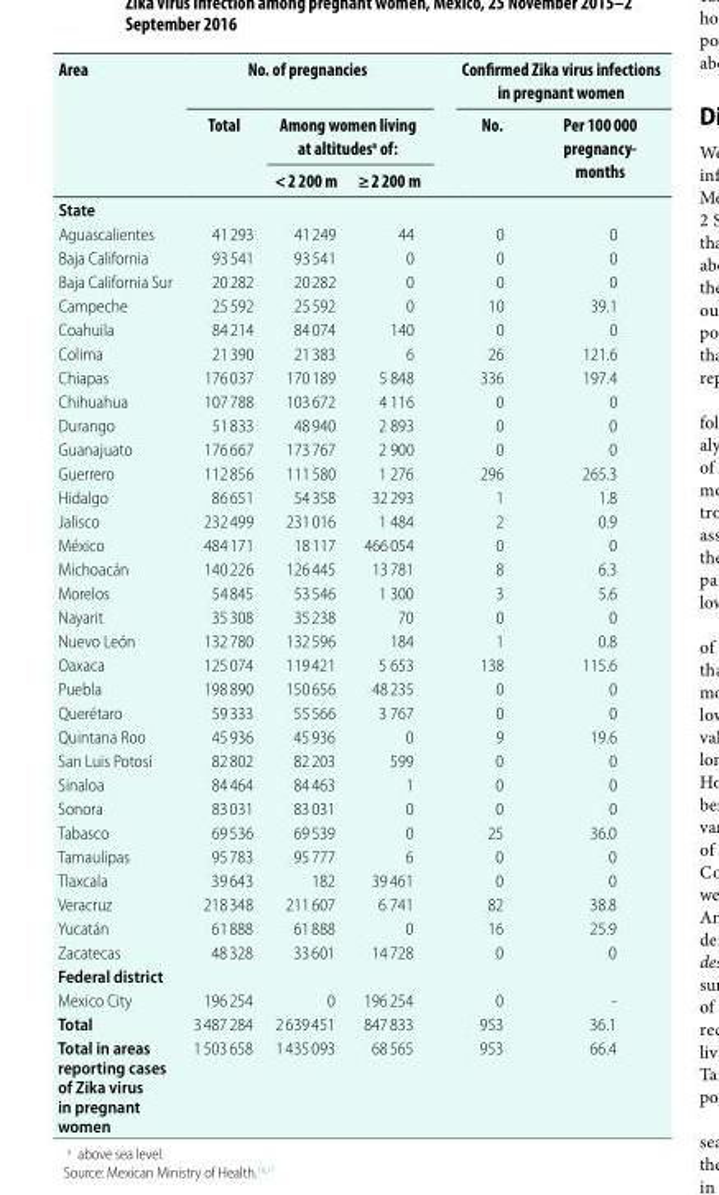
<table><thead><tr><td rowspan="3">Area</td><td colspan="3">No. of pregnancies</td><td colspan="2">Confirmed Zika virus infections in pregnant women</td></tr><tr><td rowspan="2">Total</td><td colspan="2">Among women living at altitudes<sup>a</sup> of:</td><td rowspan="2">No.</td><td rowspan="2">Per 100 000 pregnancy- months</td></tr><tr><td>&lt; 2 200 m</td><td>≥ 2 200 m</td></tr></thead><tbody><tr><td colspan="6">State</td></tr><tr><td>Aguascalientes</td><td>41 293</td><td>41 249</td><td>44</td><td>0</td><td>0</td></tr><tr><td>Baja California</td><td>93 541</td><td>93 541</td><td>0</td><td>0</td><td>0</td></tr><tr><td>Baja California Sur</td><td>20 282</td><td>20 282</td><td>0</td><td>0</td><td>0</td></tr><tr><td>Campeche</td><td>25 592</td><td>25 592</td><td>0</td><td>10</td><td>39.1</td></tr><tr><td>Coahuila</td><td>84 214</td><td>84 074</td><td>140</td><td>0</td><td>0</td></tr><tr><td>Colima</td><td>21 390</td><td>21 383</td><td>6</td><td>26</td><td>121.6</td></tr><tr><td>Chiapas</td><td>176 037</td><td>170 189</td><td>5 848</td><td>336</td><td>197.4</td></tr><tr><td>Chihuahua</td><td>107 788</td><td>103 672</td><td>4 116</td><td>0</td><td>0</td></tr><tr><td>Durango</td><td>51 833</td><td>48 940</td><td>2 893</td><td>0</td><td>0</td></tr><tr><td>Guanajuato</td><td>176 667</td><td>173 767</td><td>2 900</td><td>0</td><td>0</td></tr><tr><td>Guerrero</td><td>112 856</td><td>111 580</td><td>1 276</td><td>296</td><td>265.3</td></tr><tr><td>Hidalgo</td><td>86 651</td><td>54 358</td><td>32 293</td><td>1</td><td>1.8</td></tr><tr><td>Jalisco</td><td>232 499</td><td>231 016</td><td>1 484</td><td>2</td><td>0.9</td></tr><tr><td>México</td><td>484 171</td><td>18 117</td><td>466 054</td><td>0</td><td>0</td></tr><tr><td>Michoacán</td><td>140 226</td><td>126 445</td><td>13 781</td><td>8</td><td>6.3</td></tr><tr><td>Morelos</td><td>54 845</td><td>53 546</td><td>1 300</td><td>3</td><td>5.6</td></tr><tr><td>Nayarit</td><td>35 308</td><td>35 238</td><td>70</td><td>0</td><td>0</td></tr><tr><td>Nuevo León</td><td>132 780</td><td>132 596</td><td>184</td><td>1</td><td>0.8</td></tr><tr><td>Oaxaca</td><td>125 074</td><td>119 421</td><td>5 653</td><td>138</td><td>115.6</td></tr><tr><td>Puebla</td><td>198 890</td><td>150 656</td><td>48 235</td><td>0</td><td>0</td></tr><tr><td>Querétaro</td><td>59 333</td><td>55 566</td><td>3 767</td><td>0</td><td>0</td></tr><tr><td>Quintana Roo</td><td>45 936</td><td>45 936</td><td>0</td><td>9</td><td>19.6</td></tr><tr><td>San Luis Potosí</td><td>82 802</td><td>82 203</td><td>599</td><td>0</td><td>0</td></tr><tr><td>Sinaloa</td><td>84 464</td><td>84 463</td><td>1</td><td>0</td><td>0</td></tr><tr><td>Sonora</td><td>83 031</td><td>83 031</td><td>0</td><td>0</td><td>0</td></tr><tr><td>Tabasco</td><td>69 536</td><td>69 539</td><td>0</td><td>25</td><td>36.0</td></tr><tr><td>Tamaulipas</td><td>95 783</td><td>95 777</td><td>6</td><td>0</td><td>0</td></tr><tr><td>Tlaxcala</td><td>39 643</td><td>182</td><td>39 461</td><td>0</td><td>0</td></tr><tr><td>Veracruz</td><td>218 348</td><td>211 607</td><td>6 741</td><td>82</td><td>38.8</td></tr><tr><td>Yucatán</td><td>61 888</td><td>61 888</td><td>0</td><td>16</td><td>25.9</td></tr><tr><td>Zacatecas</td><td>48 328</td><td>33 601</td><td>14 728</td><td>0</td><td>0</td></tr><tr><td colspan="6">Federal district</td></tr><tr><td>Mexico City</td><td>196 254</td><td>0</td><td>196 254</td><td>0</td><td>-</td></tr><tr><td>Total</td><td>3 487 284</td><td>2 639 451</td><td>847 833</td><td>953</td><td>36.1</td></tr><tr><td>Total in areas reporting cases of Zika virus in pregnant women</td><td>1 503 658</td><td>1 435 093</td><td>68 565</td><td>953</td><td>66.4</td></tr></tbody></table>